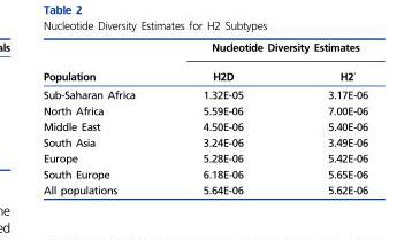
<table><thead><tr><td rowspan="2">Population</td><td colspan="2">Nucleotide Diversity Estimates</td></tr><tr><td>H2D</td><td>H2′</td></tr></thead><tbody><tr><td>Sub-Saharan Africa</td><td>1.32E-05</td><td>3.17E-06</td></tr><tr><td>North Africa</td><td>5.59E-06</td><td>7.00E-06</td></tr><tr><td>Middle East</td><td>4.50E-06</td><td>5.40E-06</td></tr><tr><td>South Asia</td><td>3.24E-06</td><td>3.49E-06</td></tr><tr><td>Europe</td><td>5.28E-06</td><td>5.42E-06</td></tr><tr><td>South Europe</td><td>6.18E-06</td><td>5.65E-06</td></tr><tr><td>All populations</td><td>5.64E-06</td><td>5.62E-06</td></tr></tbody></table>